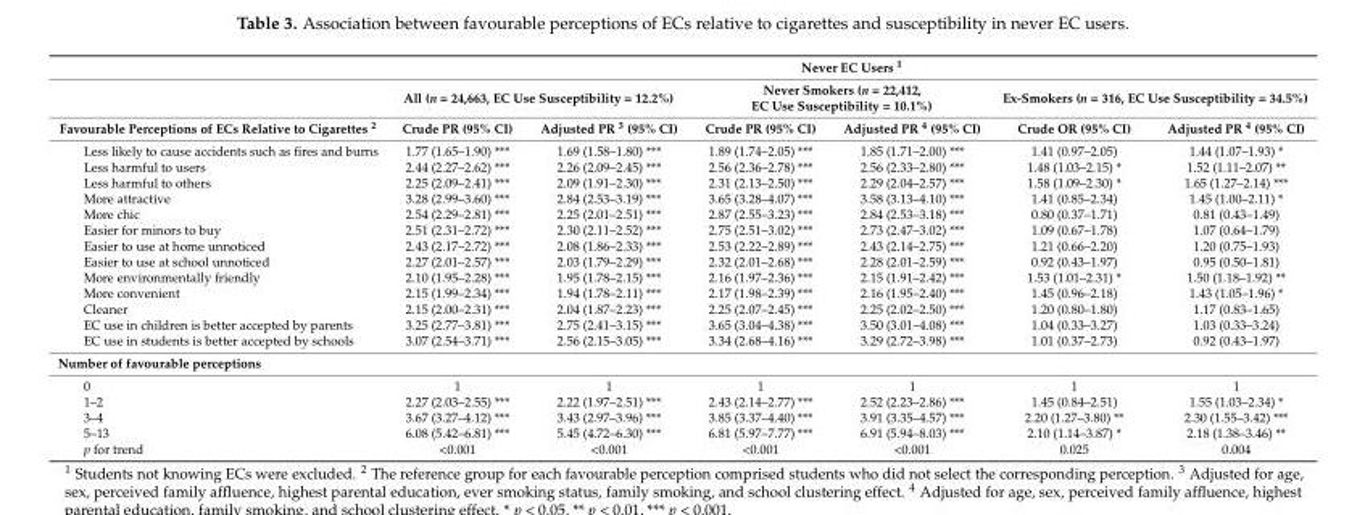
<table><thead><tr><td rowspan="3">Favourable Perceptions of ECs Relative to Cigarettes <sup>2</sup></td><td colspan="6">Never EC Users <sup>1</sup></td></tr><tr><td colspan="2">All (n = 24,663, EC Use Susceptibility = 12.2%)</td><td colspan="2">Never Smokers (n = 22,412, EC Use Susceptibility = 10.1%)</td><td colspan="2">Ex-Smokers (n = 316, EC Use Susceptibility = 34.5%)</td></tr><tr><td>Crude PR (95% CI)</td><td>Adjusted PR <sup>3</sup> (95% CI)</td><td>Crude PR (95% CI)</td><td>Adjusted PR <sup>4</sup> (95% CI)</td><td>Crude OR (95% CI)</td><td>Adjusted PR <sup>4</sup> (95% CI)</td></tr></thead><tbody><tr><td>Less likely to cause accidents such as fires and burns</td><td>1.77 (1.65–1.90) ***</td><td>1.69 (1.58–1.80) ***</td><td>1.89 (1.74–2.05) ***</td><td>1.85 (1.71–2.00) ***</td><td>1.41 (0.97–2.05)</td><td>1.44 (1.07–1.93) *</td></tr><tr><td>Less harmful to users</td><td>2.44 (2.27–2.62) ***</td><td>2.26 (2.09–2.45) ***</td><td>2.56 (2.36–2.78) ***</td><td>2.56 (2.33–2.80) ***</td><td>1.48 (1.03–2.15) *</td><td>1.52 (1.11–2.07) **</td></tr><tr><td>Less harmful to others</td><td>2.25 (2.09–2.41) ***</td><td>2.09 (1.91–2.30) ***</td><td>2.31 (2.13–2.50) ***</td><td>2.29 (2.04–2.57) ***</td><td>1.58 (1.09–2.30) *</td><td>1.65 (1.27–2.14) ***</td></tr><tr><td>More attractive</td><td>3.28 (2.99–3.60) ***</td><td>2.84 (2.53–3.19) ***</td><td>3.65 (3.28–4.07) ***</td><td>3.58 (3.13–4.10) ***</td><td>1.41 (0.85–2.34)</td><td>1.45 (1.00–2.11) *</td></tr><tr><td>More chic</td><td>2.54 (2.29–2.81) ***</td><td>2.25 (2.01–2.51) ***</td><td>2.87 (2.55–3.23) ***</td><td>2.84 (2.53–3.18) ***</td><td>0.80 (0.37–1.71)</td><td>0.81 (0.43–1.49)</td></tr><tr><td>Easier for minors to buy</td><td>2.51 (2.31–2.72) ***</td><td>2.30 (2.11–2.52) ***</td><td>2.75 (2.51–3.02) ***</td><td>2.73 (2.47–3.02) ***</td><td>1.09 (0.67–1.78)</td><td>1.07 (0.64–1.79)</td></tr><tr><td>Easier to use at home unnoticed</td><td>2.43 (2.17–2.72) ***</td><td>2.08 (1.86–2.33) ***</td><td>2.53 (2.22–2.89) ***</td><td>2.43 (2.14–2.75) ***</td><td>1.21 (0.66–2.20)</td><td>1.20 (0.75–1.93)</td></tr><tr><td>Easier to use at school unnoticed</td><td>2.27 (2.01–2.57) ***</td><td>2.03 (1.79–2.29) ***</td><td>2.32 (2.01–2.68) ***</td><td>2.28 (2.01–2.59) ***</td><td>0.92 (0.43–1.97)</td><td>0.95 (0.50–1.81)</td></tr><tr><td>More environmentally friendly</td><td>2.10 (1.95–2.28) ***</td><td>1.95 (1.78–2.15) ***</td><td>2.16 (1.97–2.36) ***</td><td>2.15 (1.91–2.42) ***</td><td>1.53 (1.01–2.31) *</td><td>1.50 (1.18–1.92) **</td></tr><tr><td>More convenient</td><td>2.15 (1.99–2.34) ***</td><td>1.94 (1.78–2.11) ***</td><td>2.17 (1.98–2.39) ***</td><td>2.16 (1.95–2.40) ***</td><td>1.45 (0.96–2.18)</td><td>1.43 (1.05–1.96) *</td></tr><tr><td>Cleaner</td><td>2.15 (2.00–2.31) ***</td><td>2.04 (1.87–2.23) ***</td><td>2.25 (2.07–2.45) ***</td><td>2.25 (2.02–2.50) ***</td><td>1.20 (0.80–1.80)</td><td>1.17 (0.83–1.65)</td></tr><tr><td>EC use in children is better accepted by parents</td><td>3.25 (2.77–3.81) ***</td><td>2.75 (2.41–3.15) ***</td><td>3.65 (3.04–4.38) ***</td><td>3.50 (3.01–4.08) ***</td><td>1.04 (0.33–3.27)</td><td>1.03 (0.33–3.24)</td></tr><tr><td>EC use in students is better accepted by schools</td><td>3.07 (2.54–3.71) ***</td><td>2.56 (2.15–3.05) ***</td><td>3.34 (2.68–4.16) ***</td><td>3.29 (2.72–3.98) ***</td><td>1.01 (0.37–2.73)</td><td>0.92 (0.43–1.97)</td></tr><tr><td colspan="7">Number of favourable perceptions</td></tr><tr><td>0</td><td>1</td><td>1</td><td>1</td><td>1</td><td>1</td><td>1</td></tr><tr><td>1–2</td><td>2.27 (2.03–2.55) ***</td><td>2.22 (1.97–2.51) ***</td><td>2.43 (2.14–2.77) ***</td><td>2.52 (2.23–2.86) ***</td><td>1.45 (0.84–2.51)</td><td>1.55 (1.03–2.34) *</td></tr><tr><td>3–4</td><td>3.67 (3.27–4.12) ***</td><td>3.43 (2.97–3.96) ***</td><td>3.85 (3.37–4.40) ***</td><td>3.91 (3.35–4.57) ***</td><td>2.20 (1.27–3.80) **</td><td>2.30 (1.55–3.42) ***</td></tr><tr><td>5–13</td><td>6.08 (5.42–6.81) ***</td><td>5.45 (4.72–6.30) ***</td><td>6.81 (5.97–7.77) ***</td><td>6.91 (5.94–8.03) ***</td><td>2.10 (1.14–3.87) *</td><td>2.18 (1.38–3.46) **</td></tr><tr><td>p for trend</td><td>&lt;0.001</td><td>&lt;0.001</td><td>&lt;0.001</td><td>&lt;0.001</td><td>0.025</td><td>0.004</td></tr></tbody></table>